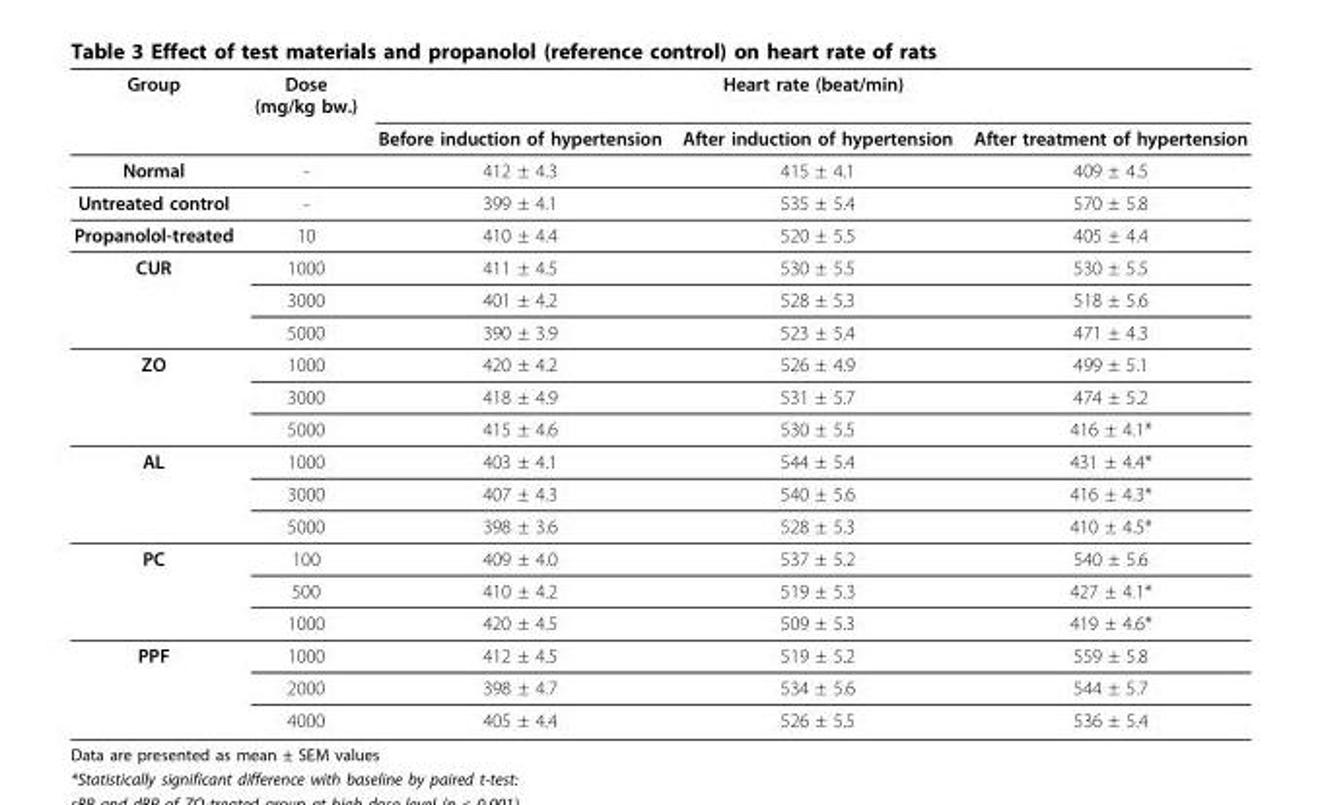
<table><thead><tr><td rowspan="2">Group</td><td rowspan="2">Dose (mg/kg bw.)</td><td colspan="3">Heart rate (beat/min)</td></tr><tr><td>Before induction of hypertension</td><td>After induction of hypertension</td><td>After treatment of hypertension</td></tr></thead><tbody><tr><td>Normal</td><td>-</td><td>412 ± 4.3</td><td>415 ± 4.1</td><td>409 ± 4.5</td></tr><tr><td>Untreated control</td><td>-</td><td>399 ± 4.1</td><td>535 ± 5.4</td><td>570 ± 5.8</td></tr><tr><td>Propanolol-treated</td><td>10</td><td>410 ± 4.4</td><td>520 ± 5.5</td><td>405 ± 4.4</td></tr><tr><td rowspan="3">CUR</td><td>1000</td><td>411 ± 4.5</td><td>530 ± 5.5</td><td>530 ± 5.5</td></tr><tr><td>3000</td><td>401 ± 4.2</td><td>528 ± 5.3</td><td>518 ± 5.6</td></tr><tr><td>5000</td><td>390 ± 3.9</td><td>523 ± 5.4</td><td>471 ± 4.3</td></tr><tr><td rowspan="3">ZO</td><td>1000</td><td>420 ± 4.2</td><td>526 ± 4.9</td><td>499 ± 5.1</td></tr><tr><td>3000</td><td>418 ± 4.9</td><td>531 ± 5.7</td><td>474 ± 5.2</td></tr><tr><td>5000</td><td>415 ± 4.6</td><td>530 ± 5.5</td><td>416 ± 4.1*</td></tr><tr><td rowspan="3">AL</td><td>1000</td><td>403 ± 4.1</td><td>544 ± 5.4</td><td>431 ± 4.4*</td></tr><tr><td>3000</td><td>407 ± 4.3</td><td>540 ± 5.6</td><td>416 ± 4.3*</td></tr><tr><td>5000</td><td>398 ± 3.6</td><td>528 ± 5.3</td><td>410 ± 4.5*</td></tr><tr><td rowspan="3">PC</td><td>100</td><td>409 ± 4.0</td><td>537 ± 5.2</td><td>540 ± 5.6</td></tr><tr><td>500</td><td>410 ± 4.2</td><td>519 ± 5.3</td><td>427 ± 4.1*</td></tr><tr><td>1000</td><td>420 ± 4.5</td><td>509 ± 5.3</td><td>419 ± 4.6*</td></tr><tr><td rowspan="3">PPF</td><td>1000</td><td>412 ± 4.5</td><td>519 ± 5.2</td><td>559 ± 5.8</td></tr><tr><td>2000</td><td>398 ± 4.7</td><td>534 ± 5.6</td><td>544 ± 5.7</td></tr><tr><td>4000</td><td>405 ± 4.4</td><td>526 ± 5.5</td><td>536 ± 5.4</td></tr></tbody></table>